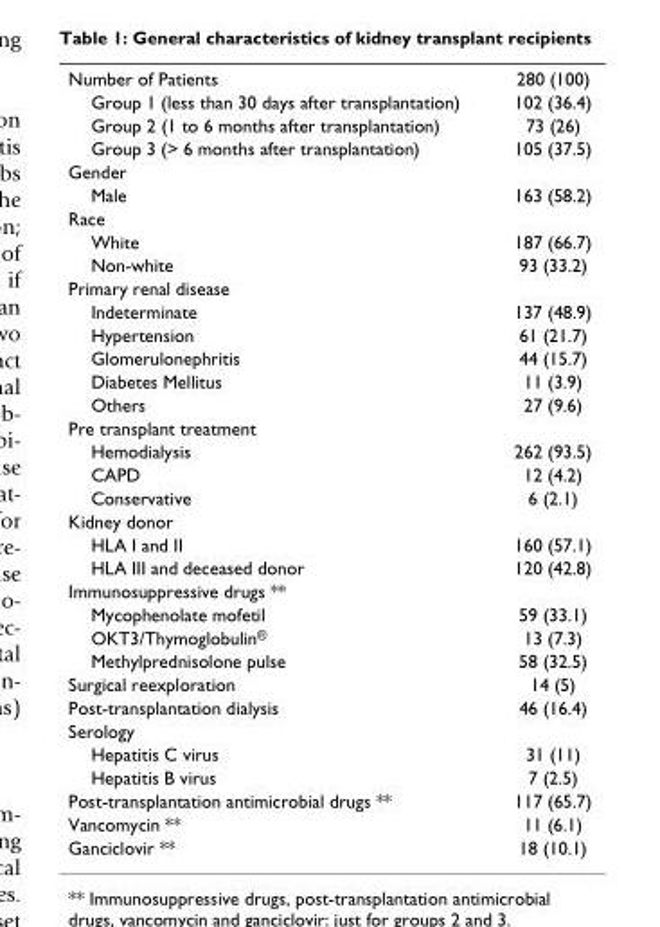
<table><tbody><tr><td>Number of Patients</td><td>280 (100)</td></tr><tr><td>Group 1 (less than 30 days after transplantation)</td><td>102 (36.4)</td></tr><tr><td>Group 2 (1 to 6 months after transplantation)</td><td>73 (26)</td></tr><tr><td>Group 3 (&gt; 6 months after transplantation)</td><td>105 (37.5)</td></tr><tr><td colspan="2">Gender</td></tr><tr><td>Male</td><td>163 (58.2)</td></tr><tr><td colspan="2">Race</td></tr><tr><td>White</td><td>187 (66.7)</td></tr><tr><td>Non-white</td><td>93 (33.2)</td></tr><tr><td colspan="2">Primary renal disease</td></tr><tr><td>Indeterminate</td><td>137 (48.9)</td></tr><tr><td>Hypertension</td><td>61 (21.7)</td></tr><tr><td>Glomerulonephritis</td><td>44 (15.7)</td></tr><tr><td>Diabetes Mellitus</td><td>11 (3.9)</td></tr><tr><td>Others</td><td>27 (9.6)</td></tr><tr><td colspan="2">Pre transplant treatment</td></tr><tr><td>Hemodialysis</td><td>262 (93.5)</td></tr><tr><td>CAPD</td><td>12 (4.2)</td></tr><tr><td>Conservative</td><td>6 (2.1)</td></tr><tr><td colspan="2">Kidney donor</td></tr><tr><td>HLA I and II</td><td>160 (57.1)</td></tr><tr><td>HLA III and deceased donor</td><td>120 (42.8)</td></tr><tr><td colspan="2">Immunosuppressive drugs **</td></tr><tr><td>Mycophenolate mofetil</td><td>59 (33.1)</td></tr><tr><td>OKT3/Thymoglobulin<sup>®</sup></td><td>13 (7.3)</td></tr><tr><td>Methylprednisolone pulse</td><td>58 (32.5)</td></tr><tr><td>Surgical reexploration</td><td>14 (5)</td></tr><tr><td>Post-transplantation dialysis</td><td>46 (16.4)</td></tr><tr><td colspan="2">Serology</td></tr><tr><td>Hepatitis C virus</td><td>31 (11)</td></tr><tr><td>Hepatitis B virus</td><td>7 (2.5)</td></tr><tr><td>Post-transplantation antimicrobial drugs **</td><td>117 (65.7)</td></tr><tr><td>Vancomycin **</td><td>11 (6.1)</td></tr><tr><td>Ganciclovir **</td><td>18 (10.1)</td></tr></tbody></table>